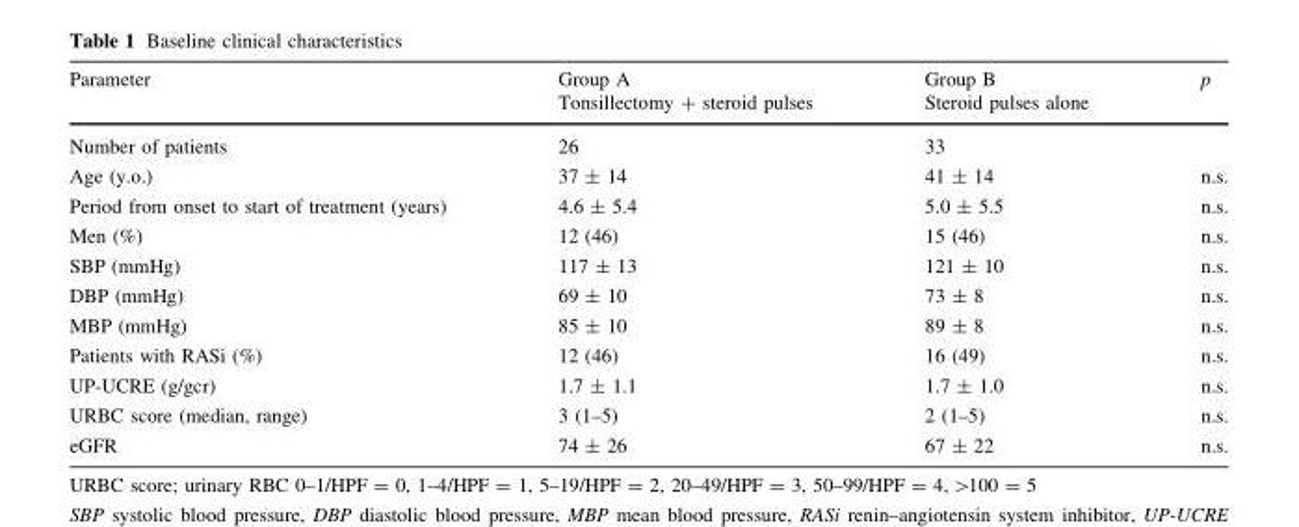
<table><thead><tr><td rowspan="2">Parameter</td><td rowspan="2">Group A Tonsillectomy + steroid pulses</td><td rowspan="2">Group B Steroid pulses alone</td><td rowspan="2">p</td></tr><tr></tr></thead><tbody><tr><td>Number of patients</td><td>26</td><td colspan="2">33</td></tr><tr><td>Age (y.o.)</td><td>37 ± 14</td><td>41 ± 14</td><td>n.s.</td></tr><tr><td>Period from onset to start of treatment (years)</td><td>4.6 ± 5.4</td><td>5.0 ± 5.5</td><td>n.s.</td></tr><tr><td>Men (%)</td><td>12 (46)</td><td>15 (46)</td><td>n.s.</td></tr><tr><td>SBP (mmHg)</td><td>117 ± 13</td><td>121 ± 10</td><td>n.s.</td></tr><tr><td>DBP (mmHg)</td><td>69 ± 10</td><td>73 ± 8</td><td>n.s.</td></tr><tr><td>MBP (mmHg)</td><td>85 ± 10</td><td>89 ± 8</td><td>n.s.</td></tr><tr><td>Patients with RASi (%)</td><td>12 (46)</td><td>16 (49)</td><td>n.s.</td></tr><tr><td>UP-UCRE (g/gcr)</td><td>1.7 ± 1.1</td><td>1.7 ± 1.0</td><td>n.s.</td></tr><tr><td>URBC score (median, range)</td><td>3 (1–5)</td><td>2 (1–5)</td><td>n.s.</td></tr><tr><td>eGFR</td><td>74 ± 26</td><td>67 ± 22</td><td>n.s.</td></tr></tbody></table>